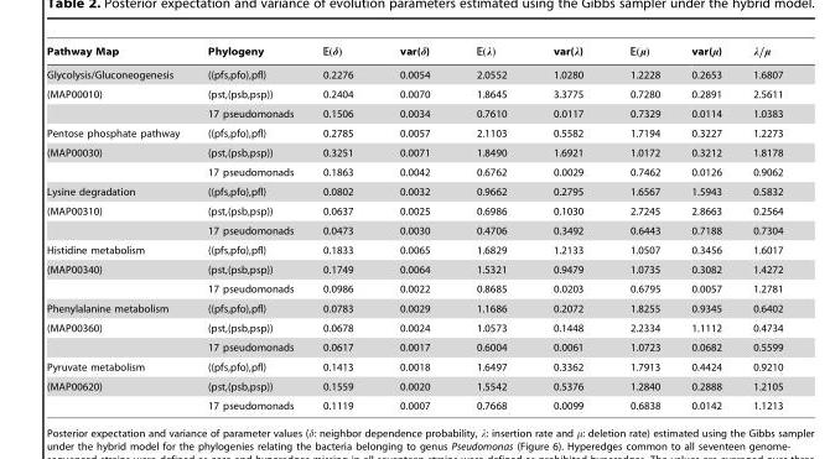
<table><thead><tr><td>Pathway Map</td><td>Phylogeny</td><td>EE(d)</td><td>var(d)</td><td>EE(l)</td><td>var(l)</td><td>EE(m)</td><td>var(m)</td><td>l==m</td></tr></thead><tbody><tr><td>Glycolysis/Gluconeogenesis</td><td>((pfs,pfo),pfl)</td><td>0.2276</td><td>0.0054</td><td>2.0552</td><td>1.0280</td><td>1.2228</td><td>0.2653</td><td>1.6807</td></tr><tr><td rowspan="2">(MAP00010)</td><td>(pst,(psb,psp))</td><td>0.2404</td><td>0.0070</td><td>1.8645</td><td>3.3775</td><td>0.7280</td><td>0.2891</td><td>2.5611</td></tr><tr><td>17 pseudomonads</td><td>0.1506</td><td>0.0034</td><td>0.7610</td><td>0.0117</td><td>0.7329</td><td>0.0114</td><td>1.0383</td></tr><tr><td>Pentose phosphate pathway</td><td>((pfs,pfo),pfl)</td><td>0.2785</td><td>0.0057</td><td>2.1103</td><td>0.5582</td><td>1.7194</td><td>0.3227</td><td>1.2273</td></tr><tr><td rowspan="2">(MAP00030)</td><td>(pst,(psb,psp))</td><td>0.3251</td><td>0.0071</td><td>1.8490</td><td>1.6921</td><td>1.0172</td><td>0.3212</td><td>1.8178</td></tr><tr><td>17 pseudomonads</td><td>0.1863</td><td>0.0042</td><td>0.6762</td><td>0.0029</td><td>0.7462</td><td>0.0126</td><td>0.9062</td></tr><tr><td>Lysine degradation</td><td>((pfs,pfo),pfl)</td><td>0.0802</td><td>0.0032</td><td>0.9662</td><td>0.2795</td><td>1.6567</td><td>1.5943</td><td>0.5832</td></tr><tr><td rowspan="2">(MAP00310)</td><td>(pst,(psb,psp))</td><td>0.0637</td><td>0.0025</td><td>0.6986</td><td>0.1030</td><td>2.7245</td><td>2.8663</td><td>0.2564</td></tr><tr><td>17 pseudomonads</td><td>0.0473</td><td>0.0030</td><td>0.4706</td><td>0.3492</td><td>0.6443</td><td>0.7188</td><td>0.7304</td></tr><tr><td>Histidine metabolism</td><td>((pfs,pfo),pfl)</td><td>0.1833</td><td>0.0065</td><td>1.6829</td><td>1.2133</td><td>1.0507</td><td>0.3456</td><td>1.6017</td></tr><tr><td rowspan="2">(MAP00340)</td><td>(pst,(psb,psp))</td><td>0.1749</td><td>0.0064</td><td>1.5321</td><td>0.9479</td><td>1.0735</td><td>0.3082</td><td>1.4272</td></tr><tr><td>17 pseudomonads</td><td>0.0986</td><td>0.0022</td><td>0.8685</td><td>0.0203</td><td>0.6795</td><td>0.0057</td><td>1.2781</td></tr><tr><td>Phenylalanine metabolism</td><td>((pfs,pfo),pfl)</td><td>0.0783</td><td>0.0029</td><td>1.1686</td><td>0.2072</td><td>1.8255</td><td>0.9345</td><td>0.6402</td></tr><tr><td rowspan="2">(MAP00360)</td><td>(pst,(psb,psp))</td><td>0.0678</td><td>0.0024</td><td>1.0573</td><td>0.1448</td><td>2.2334</td><td>1.1112</td><td>0.4734</td></tr><tr><td>17 pseudomonads</td><td>0.0617</td><td>0.0017</td><td>0.6004</td><td>0.0061</td><td>1.0723</td><td>0.0682</td><td>0.5599</td></tr><tr><td>Pyruvate metabolism</td><td>((pfs,pfo),pfl)</td><td>0.1413</td><td>0.0018</td><td>1.6497</td><td>0.3362</td><td>1.7913</td><td>0.4424</td><td>0.9210</td></tr><tr><td rowspan="2">(MAP00620)</td><td>(pst,(psb,psp))</td><td>0.1559</td><td>0.0020</td><td>1.5542</td><td>0.5376</td><td>1.2840</td><td>0.2888</td><td>1.2105</td></tr><tr><td>17 pseudomonads</td><td>0.1119</td><td>0.0007</td><td>0.7668</td><td>0.0099</td><td>0.6838</td><td>0.0142</td><td>1.1213</td></tr></tbody></table>